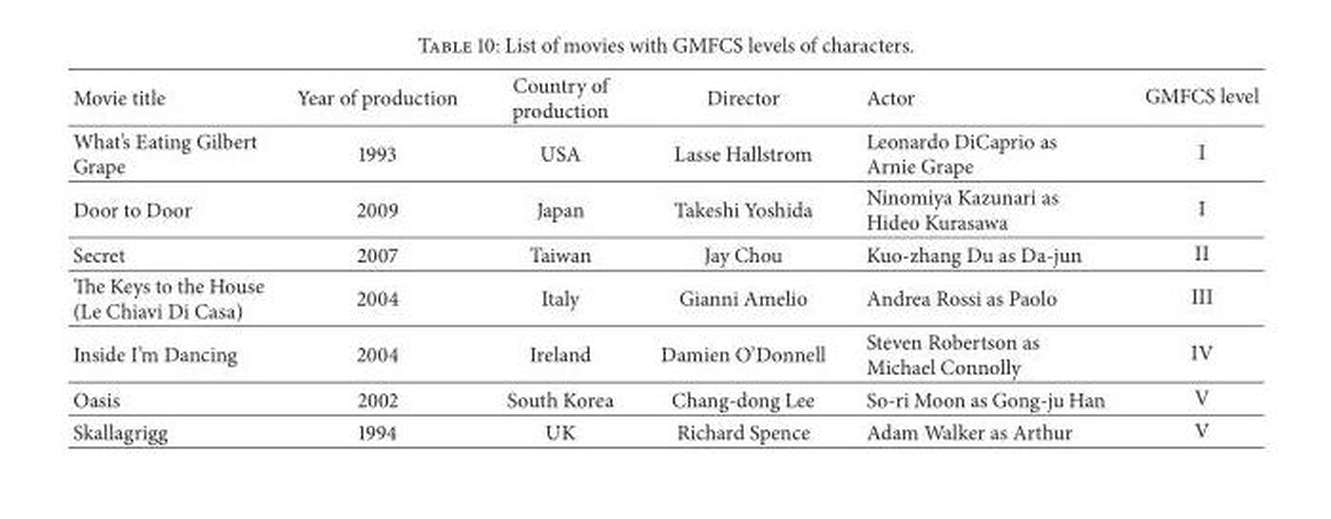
<table><thead><tr><td>Movie title</td><td>Year of production</td><td>Country of production</td><td>Director</td><td>Actor</td><td>GMFCS level</td></tr></thead><tbody><tr><td>What’s Eating Gilbert Grape</td><td>1993</td><td>USA</td><td>Lasse Hallstrom</td><td>Leonardo DiCaprio as Arnie Grape</td><td>I</td></tr><tr><td>Door to Door</td><td>2009</td><td>Japan</td><td>Takeshi Yoshida</td><td>Ninomiya Kazunari as Hideo Kurasawa</td><td>I</td></tr><tr><td>Secret</td><td>2007</td><td>Taiwan</td><td>Jay Chou</td><td>Kuo-zhang Du as Da-jun</td><td>II</td></tr><tr><td>The Keys to the House (Le Chiavi Di Casa)</td><td>2004</td><td>Italy</td><td>Gianni Amelio</td><td>Andrea Rossi as Paolo</td><td>III</td></tr><tr><td>Inside I’m Dancing</td><td>2004</td><td>Ireland</td><td>Damien O’Donnell</td><td>Steven Robertson as Michael Connolly</td><td>IV</td></tr><tr><td>Oasis</td><td>2002</td><td>South Korea</td><td>Chang-dong Lee</td><td>So-ri Moon as Gong-ju Han</td><td>V</td></tr><tr><td>Skallagrigg</td><td>1994</td><td>UK</td><td>Richard Spence</td><td>Adam Walker as Arthur</td><td>V</td></tr></tbody></table>